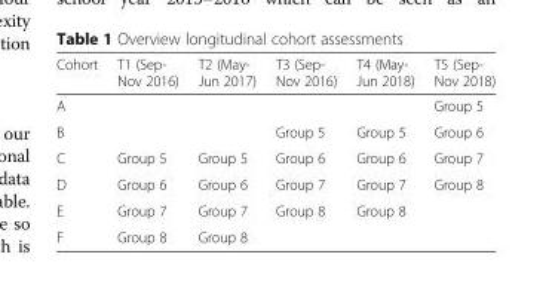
<table><thead><tr><td>Cohort</td><td>T1 (Sep- Nov 2016)</td><td>T2 (May- Jun 2017)</td><td>T3 (Sep- Nov 2016)</td><td>T4 (May- Jun 2018)</td><td>T5 (Sep- Nov 2018)</td></tr></thead><tbody><tr><td>A</td><td></td><td></td><td></td><td></td><td>Group 5</td></tr><tr><td>B</td><td></td><td></td><td>Group 5</td><td>Group 5</td><td>Group 6</td></tr><tr><td>C</td><td>Group 5</td><td>Group 5</td><td>Group 6</td><td>Group 6</td><td>Group 7</td></tr><tr><td>D</td><td>Group 6</td><td>Group 6</td><td>Group 7</td><td>Group 7</td><td>Group 8</td></tr><tr><td>E</td><td>Group 7</td><td>Group 7</td><td>Group 8</td><td>Group 8</td><td></td></tr><tr><td>F</td><td>Group 8</td><td>Group 8</td><td></td><td></td><td></td></tr></tbody></table>